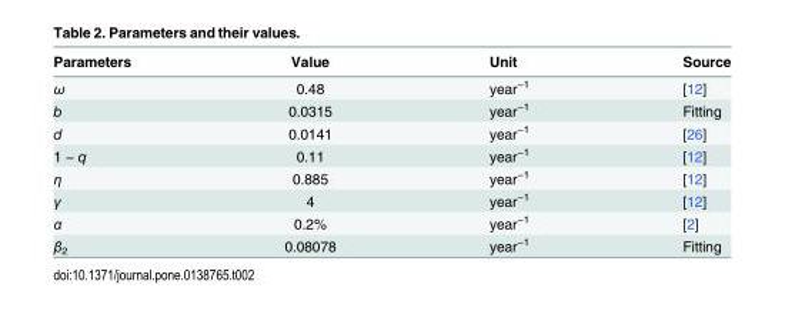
<table><thead><tr><td>Parameters</td><td>Value</td><td>Unit</td><td>Source</td></tr></thead><tbody><tr><td>ω</td><td>0.48</td><td>year<sup>−1</sup></td><td>[12]</td></tr><tr><td>b</td><td>0.0315</td><td>year<sup>−1</sup></td><td>Fitting</td></tr><tr><td>d</td><td>0.0141</td><td>year<sup>−1</sup></td><td>[26]</td></tr><tr><td>1 − q</td><td>0.11</td><td>year<sup>−1</sup></td><td>[12]</td></tr><tr><td>η</td><td>0.885</td><td>year<sup>−1</sup></td><td>[12]</td></tr><tr><td>γ</td><td>4</td><td>year<sup>−1</sup></td><td>[12]</td></tr><tr><td>α</td><td>0.2%</td><td>year<sup>−1</sup></td><td>[2]</td></tr><tr><td>β<sub>2</sub></td><td>0.08078</td><td>year<sup>−1</sup></td><td>Fitting</td></tr></tbody></table>